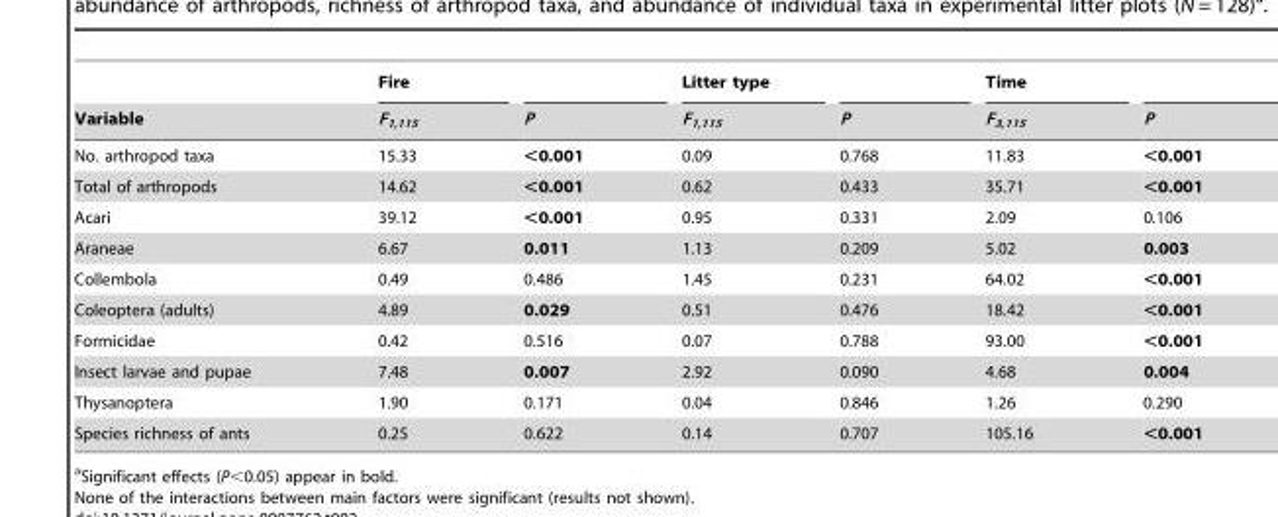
<table><thead><tr><td rowspan="2">Variable</td><td rowspan="2">Fire F<sub>1,115</sub></td><td rowspan="2">P</td><td rowspan="2">Litter type F<sub>1,115</sub></td><td rowspan="2">P</td><td rowspan="2">Time F<sub>3,115</sub></td><td rowspan="2">P</td></tr><tr></tr></thead><tbody><tr><td>No. arthropod taxa</td><td>15.33</td><td>&lt;0.001</td><td>0.09</td><td>0.768</td><td>11.83</td><td>&lt;0.001</td></tr><tr><td>Total of arthropods</td><td>14.62</td><td>&lt;0.001</td><td>0.62</td><td>0.433</td><td>35.71</td><td>&lt;0.001</td></tr><tr><td>Acari</td><td>39.12</td><td>&lt;0.001</td><td>0.95</td><td>0.331</td><td>2.09</td><td>0.106</td></tr><tr><td>Araneae</td><td>6.67</td><td>0.011</td><td>1.13</td><td>0.209</td><td>5.02</td><td>0.003</td></tr><tr><td>Collembola</td><td>0.49</td><td>0.486</td><td>1.45</td><td>0.231</td><td>64.02</td><td>&lt;0.001</td></tr><tr><td>Coleoptera (adults)</td><td>4.89</td><td>0.029</td><td>0.51</td><td>0.476</td><td>18.42</td><td>&lt;0.001</td></tr><tr><td>Formicidae</td><td>0.42</td><td>0.516</td><td>0.07</td><td>0.788</td><td>93.00</td><td>&lt;0.001</td></tr><tr><td>Insect larvae and pupae</td><td>7.48</td><td>0.007</td><td>2.92</td><td>0.090</td><td>4.68</td><td>0.004</td></tr><tr><td>Thysanoptera</td><td>1.90</td><td>0.171</td><td>0.04</td><td>0.846</td><td>1.26</td><td>0.290</td></tr><tr><td>Species richness of ants</td><td>0.25</td><td>0.622</td><td>0.14</td><td>0.707</td><td>105.16</td><td>&lt;0.001</td></tr></tbody></table>